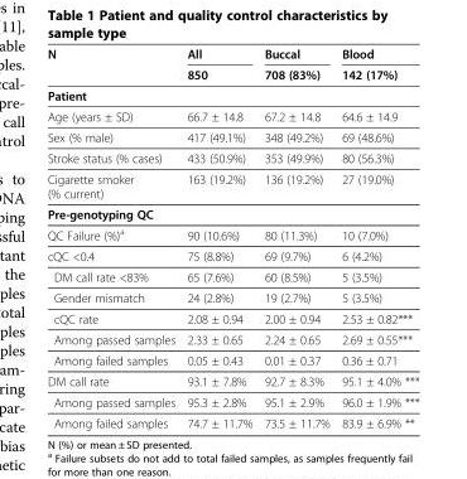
<table><thead><tr><td rowspan="2">N</td><td rowspan="2">All 850</td><td rowspan="2">Buccal 708 (83%)</td><td rowspan="2">Blood 142 (17%)</td></tr><tr></tr></thead><tbody><tr><td colspan="4">Patient</td></tr><tr><td>Age (years ± SD)</td><td>66.7 ± 14.8</td><td>67.2 ± 14.8</td><td>64.6 ± 14.9</td></tr><tr><td>Sex (% male)</td><td>417 (49.1%)</td><td>348 (49.2%)</td><td>69 (48.6%)</td></tr><tr><td>Stroke status (% cases)</td><td>433 (50.9%)</td><td>353 (49.9%)</td><td>80 (56.3%)</td></tr><tr><td>Cigarette smoker (% current)</td><td>163 (19.2%)</td><td>136 (19.2%)</td><td>27 (19.0%)</td></tr><tr><td colspan="4">Pre-genotyping QC</td></tr><tr><td>QC Failure (%)<sup>a</sup></td><td>90 (10.6%)</td><td>80 (11.3%)</td><td>10 (7.0%)</td></tr><tr><td>cQC &lt;0.4</td><td>75 (8.8%)</td><td>69 (9.7%)</td><td>6 (4.2%)</td></tr><tr><td>DM call rate &lt;83%</td><td>65 (7.6%)</td><td>60 (8.5%)</td><td>5 (3.5%)</td></tr><tr><td>Gender mismatch</td><td>24 (2.8%)</td><td>19 (2.7%)</td><td>5 (3.5%)</td></tr><tr><td>cQC rate</td><td>2.08 ± 0.94</td><td>2.00 ± 0.94</td><td>2.53 ± 0.82***</td></tr><tr><td>Among passed samples</td><td>2.33 ± 0.65</td><td>2.24 ± 0.65</td><td>2.69 ± 0.55***</td></tr><tr><td>Among failed samples</td><td>0.05 ± 0.43</td><td>0.01 ± 0.37</td><td>0.36 ± 0.71</td></tr><tr><td>DM call rate</td><td>93.1 ± 7.8%</td><td>92.7 ± 8.3%</td><td>95.1 ± 4.0% ***</td></tr><tr><td>Among passed samples</td><td>95.3 ± 2.8%</td><td>95.1 ± 2.9%</td><td>96.0 ± 1.9% ***</td></tr><tr><td>Among failed samples</td><td>74.7 ± 11.7%</td><td>73.5 ± 11.7%</td><td>83.9 ± 6.9% **</td></tr></tbody></table>